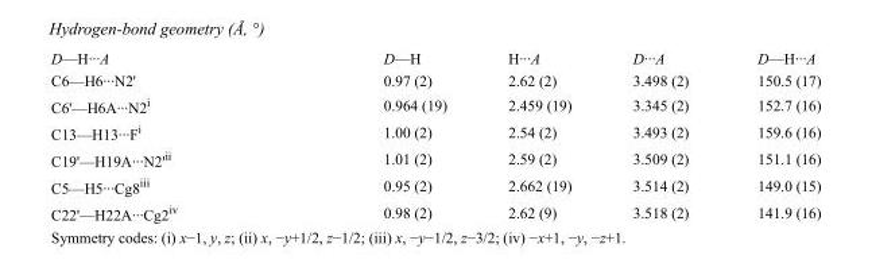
<table><tbody><tr><td>D—H···A</td><td>D—H</td><td>H···A</td><td>D···A</td><td>D—H···A</td></tr><tr><td>C6—H6···N2&#x27;</td><td>0.97 (2)</td><td>2.62 (2)</td><td>3.498 (2)</td><td>150.5 (17)</td></tr><tr><td>C6&#x27;—H6A···N2<sup>i</sup></td><td>0.964 (19)</td><td>2.459 (19)</td><td>3.345 (2)</td><td>152.7 (16)</td></tr><tr><td>C13—H13···F<sup>i</sup></td><td>1.00 (2)</td><td>2.54 (2)</td><td>3.493 (2)</td><td>159.6 (16)</td></tr><tr><td>C19&#x27;—H19A···N2&#x27;<sup>ii</sup></td><td>1.01 (2)</td><td>2.59 (2)</td><td>3.509 (2)</td><td>151.1 (16)</td></tr><tr><td>C5—H5···Cg8<sup>iii</sup></td><td>0.95 (2)</td><td>2.662 (19)</td><td>3.514 (2)</td><td>149.0 (15)</td></tr><tr><td>C22&#x27;—H22A···Cg2<sup>iv</sup></td><td>0.98 (2)</td><td>2.62 (9)</td><td>3.518 (2)</td><td>141.9 (16)</td></tr></tbody></table>